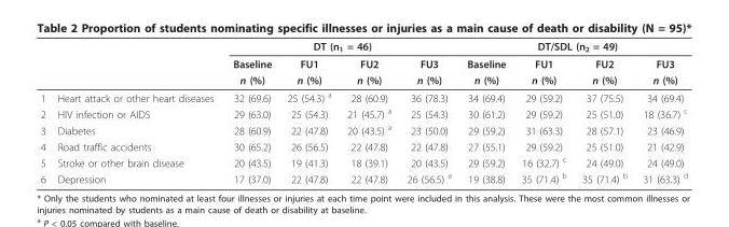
<table><thead><tr><td rowspan="3"></td><td rowspan="3"></td><td colspan="4">DT (n<sub>1</sub> = 46)</td><td colspan="4">DT/SDL (n<sub>2</sub> = 49)</td></tr><tr><td rowspan="2">Baseline n (%)</td><td rowspan="2">FU1 n (%)</td><td rowspan="2">FU2 n (%)</td><td rowspan="2">FU3 n (%)</td><td rowspan="2">Baseline n (%)</td><td rowspan="2">FU1 n (%)</td><td rowspan="2">FU2 n (%)</td><td rowspan="2">FU3 n (%)</td></tr><tr></tr></thead><tbody><tr><td>1</td><td>Heart attack or other heart diseases</td><td>32 (69.6)</td><td>25 (54.3) <sup>a</sup></td><td>28 (60.9)</td><td>36 (78.3)</td><td>34 (69.4)</td><td>29 (59.2)</td><td>37 (75.5)</td><td>34 (69.4)</td></tr><tr><td>2</td><td>HIV infection or AIDS</td><td>29 (63.0)</td><td>25 (54.3)</td><td>21 (45.7) <sup>a</sup></td><td>25 (54.3)</td><td>30 (61.2)</td><td>29 (59.2)</td><td>25 (51.0)</td><td>18 (36.7) <sup>c</sup></td></tr><tr><td>3</td><td>Diabetes</td><td>28 (60.9)</td><td>22 (47.8)</td><td>20 (43.5) <sup>a</sup></td><td>23 (50.0)</td><td>29 (59.2)</td><td>31 (63.3)</td><td>28 (57.1)</td><td>23 (46.9)</td></tr><tr><td>4</td><td>Road traffic accidents</td><td>30 (65.2)</td><td>26 (56.5)</td><td>22 (47.8)</td><td>22 (47.8)</td><td>27 (55.1)</td><td>29 (59.2)</td><td>25 (51.0)</td><td>21 (42.9)</td></tr><tr><td>5</td><td>Stroke or other brain disease</td><td>20 (43.5)</td><td>19 (41.3)</td><td>18 (39.1)</td><td>20 (43.5)</td><td>29 (59.2)</td><td>16 (32.7) <sup>c</sup></td><td>24 (49.0)</td><td>24 (49.0)</td></tr><tr><td>6</td><td>Depression</td><td>17 (37.0)</td><td>22 (47.8)</td><td>22 (47.8)</td><td>26 (56.5) <sup>e</sup></td><td>19 (38.8)</td><td>35 (71.4) <sup>b</sup></td><td>35 (71.4) <sup>b</sup></td><td>31 (63.3) <sup>d</sup></td></tr></tbody></table>